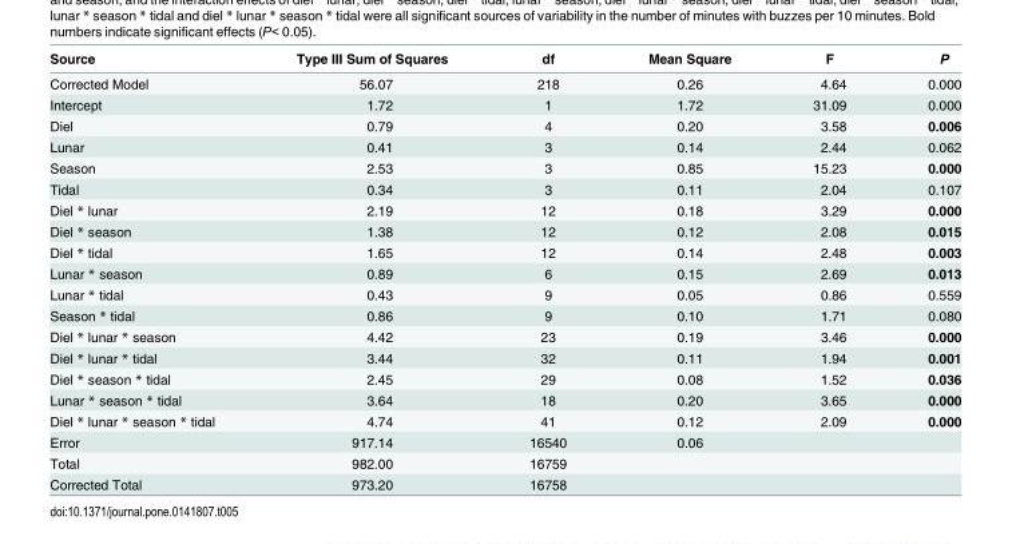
<table><thead><tr><td>Source</td><td>Type III Sum of Squares</td><td>df</td><td>Mean Square</td><td>F</td><td>P</td></tr></thead><tbody><tr><td>Corrected Model</td><td>56.07</td><td>218</td><td>0.26</td><td>4.64</td><td>0.000</td></tr><tr><td>Intercept</td><td>1.72</td><td>1</td><td>1.72</td><td>31.09</td><td>0.000</td></tr><tr><td>Diel</td><td>0.79</td><td>4</td><td>0.20</td><td>3.58</td><td>0.006</td></tr><tr><td>Lunar</td><td>0.41</td><td>3</td><td>0.14</td><td>2.44</td><td>0.062</td></tr><tr><td>Season</td><td>2.53</td><td>3</td><td>0.85</td><td>15.23</td><td>0.000</td></tr><tr><td>Tidal</td><td>0.34</td><td>3</td><td>0.11</td><td>2.04</td><td>0.107</td></tr><tr><td>Diel * lunar</td><td>2.19</td><td>12</td><td>0.18</td><td>3.29</td><td>0.000</td></tr><tr><td>Diel * season</td><td>1.38</td><td>12</td><td>0.12</td><td>2.08</td><td>0.015</td></tr><tr><td>Diel * tidal</td><td>1.65</td><td>12</td><td>0.14</td><td>2.48</td><td>0.003</td></tr><tr><td>Lunar * season</td><td>0.89</td><td>6</td><td>0.15</td><td>2.69</td><td>0.013</td></tr><tr><td>Lunar * tidal</td><td>0.43</td><td>9</td><td>0.05</td><td>0.86</td><td>0.559</td></tr><tr><td>Season * tidal</td><td>0.86</td><td>9</td><td>0.10</td><td>1.71</td><td>0.080</td></tr><tr><td>Diel * lunar * season</td><td>4.42</td><td>23</td><td>0.19</td><td>3.46</td><td>0.000</td></tr><tr><td>Diel * lunar * tidal</td><td>3.44</td><td>32</td><td>0.11</td><td>1.94</td><td>0.001</td></tr><tr><td>Diel * season * tidal</td><td>2.45</td><td>29</td><td>0.08</td><td>1.52</td><td>0.036</td></tr><tr><td>Lunar * season * tidal</td><td>3.64</td><td>18</td><td>0.20</td><td>3.65</td><td>0.000</td></tr><tr><td>Diel * lunar * season * tidal</td><td>4.74</td><td>41</td><td>0.12</td><td>2.09</td><td>0.000</td></tr><tr><td>Error</td><td>917.14</td><td>16540</td><td>0.06</td><td></td><td></td></tr><tr><td>Total</td><td>982.00</td><td>16759</td><td></td><td></td><td></td></tr><tr><td>Corrected Total</td><td>973.20</td><td>16758</td><td></td><td></td><td></td></tr></tbody></table>